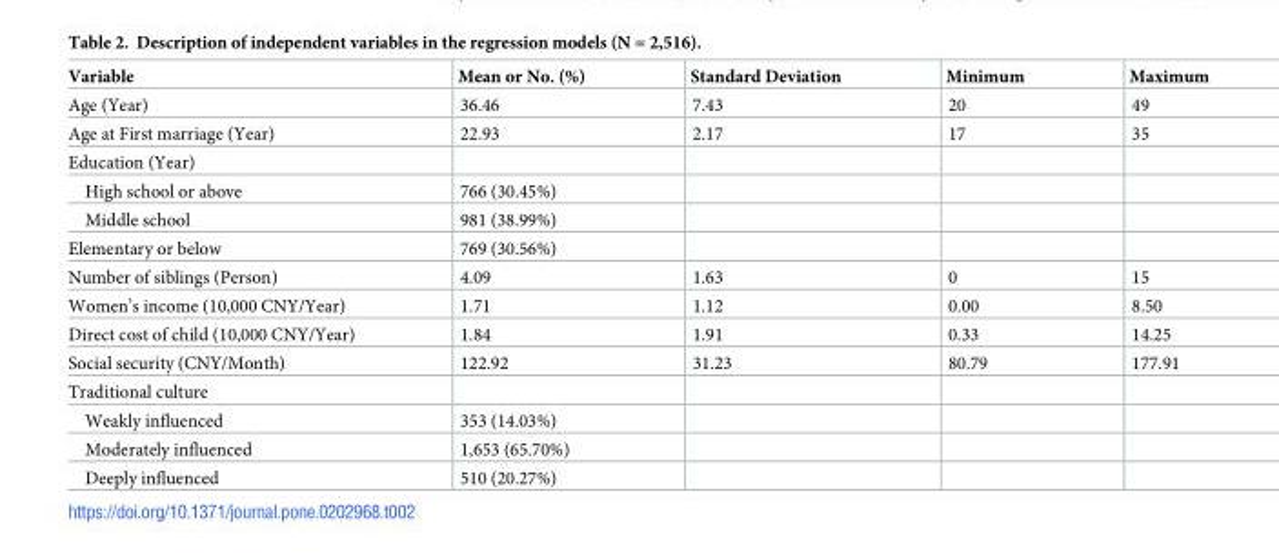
<table><thead><tr><td>Variable</td><td>Mean or No. (%)</td><td>Standard Deviation</td><td>Minimum</td><td>Maximum</td></tr></thead><tbody><tr><td>Age (Year)</td><td>36.46</td><td>7.43</td><td>20</td><td>49</td></tr><tr><td>Age at First marriage (Year)</td><td>22.93</td><td>2.17</td><td>17</td><td>35</td></tr><tr><td colspan="5">Education (Year)</td></tr><tr><td>High school or above</td><td>766 (30.45%)</td><td></td><td></td><td></td></tr><tr><td>Middle school</td><td>981 (38.99%)</td><td></td><td></td><td></td></tr><tr><td>Elementary or below</td><td>769 (30.56%)</td><td></td><td></td><td></td></tr><tr><td>Number of siblings (Person)</td><td>4.09</td><td>1.63</td><td>0</td><td>15</td></tr><tr><td>Women’s income (10,000 CNY/Year)</td><td>1.71</td><td>1.12</td><td>0.00</td><td>8.50</td></tr><tr><td>Direct cost of child (10,000 CNY/Year)</td><td>1.84</td><td>1.91</td><td>0.33</td><td>14.25</td></tr><tr><td>Social security (CNY/Month)</td><td>122.92</td><td>31.23</td><td>80.79</td><td>177.91</td></tr><tr><td colspan="5">Traditional culture</td></tr><tr><td>Weakly influenced</td><td>353 (14.03%)</td><td></td><td></td><td></td></tr><tr><td>Moderately influenced</td><td>1,653 (65.70%)</td><td></td><td></td><td></td></tr><tr><td>Deeply influenced</td><td>510 (20.27%)</td><td></td><td></td><td></td></tr></tbody></table>